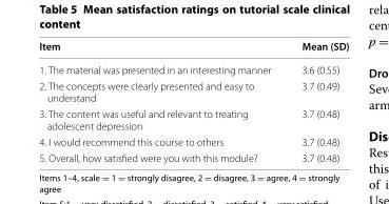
<table><thead><tr><td>Item</td><td>Mean (SD)</td></tr></thead><tbody><tr><td>1. The material was presented in an interesting manner</td><td>3.6 (0.55)</td></tr><tr><td>2. The concepts were clearly presented and easy to understand</td><td>3.7 (0.49)</td></tr><tr><td>3. The content was useful and relevant to treating adolescent depression</td><td>3.7 (0.48)</td></tr><tr><td>4. I would recommend this course to others</td><td>3.7 (0.48)</td></tr><tr><td>5. Overall, how satisfied were you with this module?</td><td>3.7 (0.48)</td></tr></tbody></table>